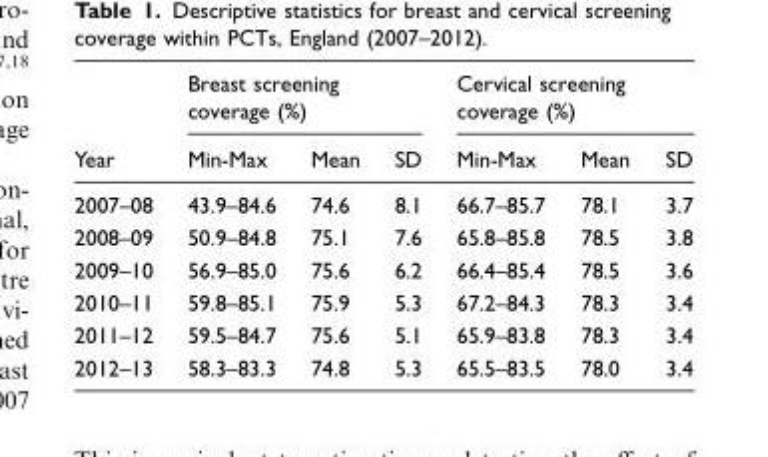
<table><thead><tr><td rowspan="2">Year</td><td colspan="3">Breast screening coverage (%)</td><td colspan="3">Cervical screening coverage (%)</td></tr><tr><td>Min-Max</td><td>Mean</td><td>SD</td><td>Min-Max</td><td>Mean</td><td>SD</td></tr></thead><tbody><tr><td>2007–08</td><td>43.9–84.6</td><td>74.6</td><td>8.1</td><td>66.7–85.7</td><td>78.1</td><td>3.7</td></tr><tr><td>2008–09</td><td>50.9–84.8</td><td>75.1</td><td>7.6</td><td>65.8–85.8</td><td>78.5</td><td>3.8</td></tr><tr><td>2009–10</td><td>56.9–85.0</td><td>75.6</td><td>6.2</td><td>66.4–85.4</td><td>78.5</td><td>3.6</td></tr><tr><td>2010–11</td><td>59.8–85.1</td><td>75.9</td><td>5.3</td><td>67.2–84.3</td><td>78.3</td><td>3.4</td></tr><tr><td>2011–12</td><td>59.5–84.7</td><td>75.6</td><td>5.1</td><td>65.9–83.8</td><td>78.3</td><td>3.4</td></tr><tr><td>2012–13</td><td>58.3–83.3</td><td>74.8</td><td>5.3</td><td>65.5–83.5</td><td>78.0</td><td>3.4</td></tr></tbody></table>